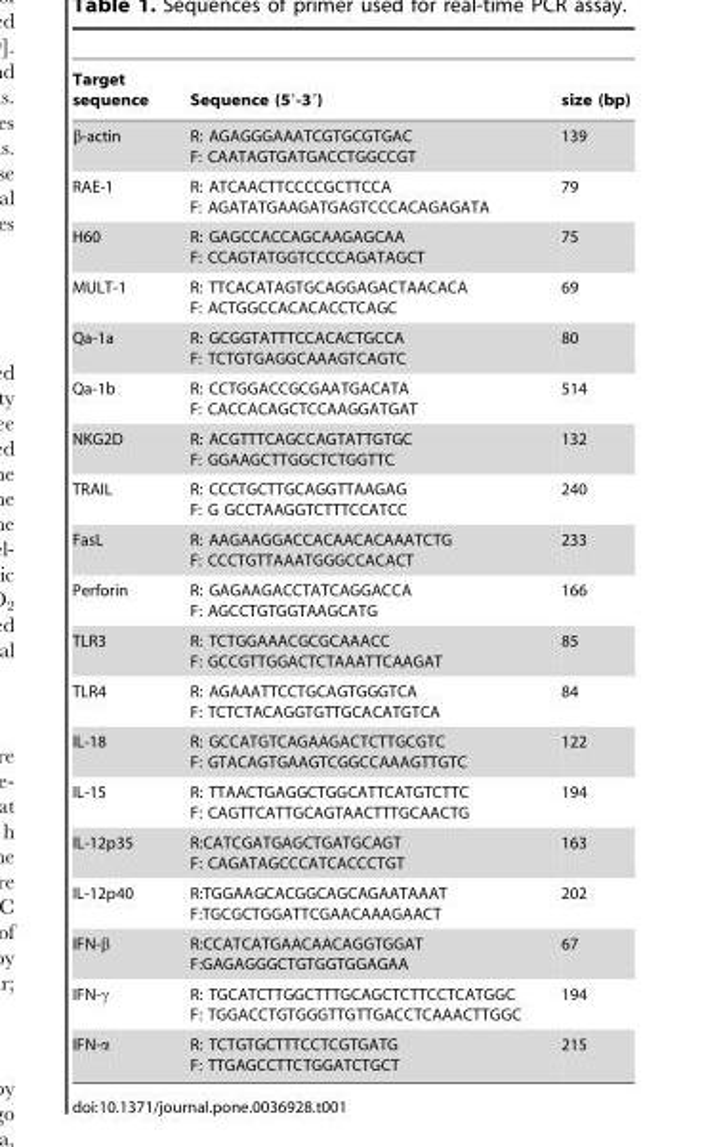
<table><thead><tr><td>Target sequence</td><td>Sequence (5′-3′)</td><td>size (bp)</td></tr></thead><tbody><tr><td>β-actin</td><td>R: AGAGGGAAATCGTGCGTGAC F: CAATAGTGATGACCTGGCCGT</td><td>139</td></tr><tr><td>RAE-1</td><td>R: ATCAACTTCCCCGCTTCCA F: AGATATGAAGATGAGTCCCACAGAGATA</td><td>79</td></tr><tr><td>H60</td><td>R: GAGCCACCAGCAAGAGCAA F: CCAGTATGGTCCCCAGATAGCT</td><td>75</td></tr><tr><td>MULT-1</td><td>R: TTCACATAGTGCAGGAGACTAACACA F: ACTGGCCACACACCTCAGC</td><td>69</td></tr><tr><td>Qa-1a</td><td>R: GCGGTATTTCCACACTGCCA F: TCTGTGAGGCAAAGTCAGTC</td><td>80</td></tr><tr><td>Qa-1b</td><td>R: CCTGGACCGCGAATGACATA F: CACCACAGCTCCAAGGATGAT</td><td>514</td></tr><tr><td>NKG2D</td><td>R: ACGTTTCAGCCAGTATTGTGC F: GGAAGCTTGGCTCTGGTTC</td><td>132</td></tr><tr><td>TRAIL</td><td>R: CCCTGCTTGCAGGTTAAGAG F: G GCCTAAGGTCTTTCCATCC</td><td>240</td></tr><tr><td>FasL</td><td>R: AAGAAGGACCACAACACAAATCTG F: CCCTGTTAAATGGGCCACACT</td><td>233</td></tr><tr><td>Perforin</td><td>R: GAGAAGACCTATCAGGACCA F: AGCCTGTGGTAAGCATG</td><td>166</td></tr><tr><td>TLR3</td><td>R: TCTGGAAACGCGCAAACC F: GCCGTTGGACTCTAAATTCAAGAT</td><td>85</td></tr><tr><td>TLR4</td><td>R: AGAAATTCCTGCAGTGGGTCA F: TCTCTACAGGTGTTGCACATGTCA</td><td>84</td></tr><tr><td>IL-18</td><td>R: GCCATGTCAGAAGACTCTTGCGTC F: GTACAGTGAAGTCGGCCAAAGTTGTC</td><td>122</td></tr><tr><td>IL-15</td><td>R: TTAACTGAGGCTGGCATTCATGTCTTC F: CAGTTCATTGCAGTAACTTTGCAACTG</td><td>194</td></tr><tr><td>IL-12p35</td><td>R:CATCGATGAGCTGATGCAGT F: CAGATAGCCCATCACCCTGT</td><td>163</td></tr><tr><td>IL-12p40</td><td>R:TGGAAGCACGGCAGCAGAATAAAT F:TGCGCTGGATTCGAACAAAGAACT</td><td>202</td></tr><tr><td>IFN-β</td><td>R:CCATCATGAACAACAGGTGGAT F:GAGAGGGCTGTGGTGGAGAA</td><td>67</td></tr><tr><td>IFN-γ</td><td>R: TGCATCTTGGCTTTGCAGCTCTTCCTCATGGC F: TGGACCTGTGGGTTGTTGACCTCAAACTTGGC</td><td>194</td></tr><tr><td>IFN-α</td><td>R: TCTGTGCTTTCCTCGTGATG F: TTGAGCCTTCTGGATCTGCT</td><td>215</td></tr></tbody></table>